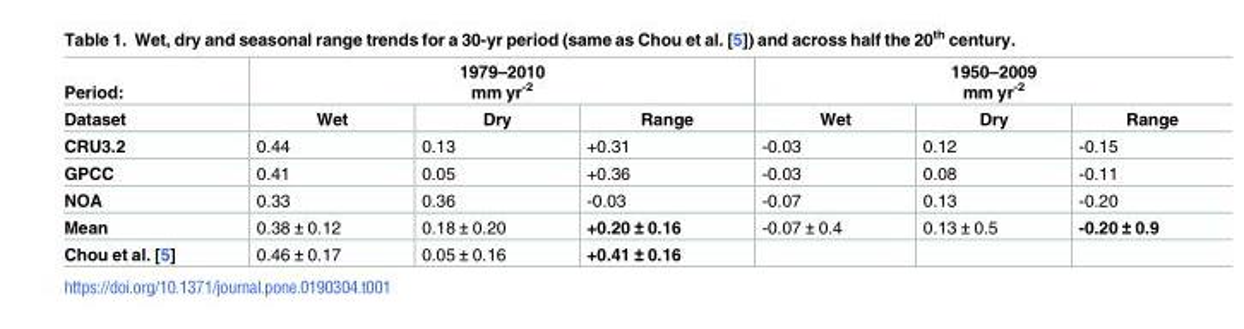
<table><thead><tr><td rowspan="2">Period: Dataset</td><td colspan="3">1979–2010 mm yr<sup>-2</sup></td><td colspan="3">1950–2009 mm yr<sup>-2</sup></td></tr><tr><td>Wet</td><td>Dry</td><td>Range</td><td>Wet</td><td>Dry</td><td>Range</td></tr></thead><tbody><tr><td>CRU3.2</td><td>0.44</td><td>0.13</td><td>+0.31</td><td>-0.03</td><td>0.12</td><td>-0.15</td></tr><tr><td>GPCC</td><td>0.41</td><td>0.05</td><td>+0.36</td><td>-0.03</td><td>0.08</td><td>-0.11</td></tr><tr><td>NOA</td><td>0.33</td><td>0.36</td><td>-0.03</td><td>-0.07</td><td>0.13</td><td>-0.20</td></tr><tr><td>Mean</td><td>0.38 ± 0.12</td><td>0.18 ± 0.20</td><td>+0.20 ± 0.16</td><td>-0.07 ± 0.4</td><td>0.13 ± 0.5</td><td>-0.20 ± 0.9</td></tr><tr><td>Chou et al. [5]</td><td>0.46 ± 0.17</td><td>0.05 ± 0.16</td><td>+0.41 ± 0.16</td><td></td><td></td><td></td></tr></tbody></table>